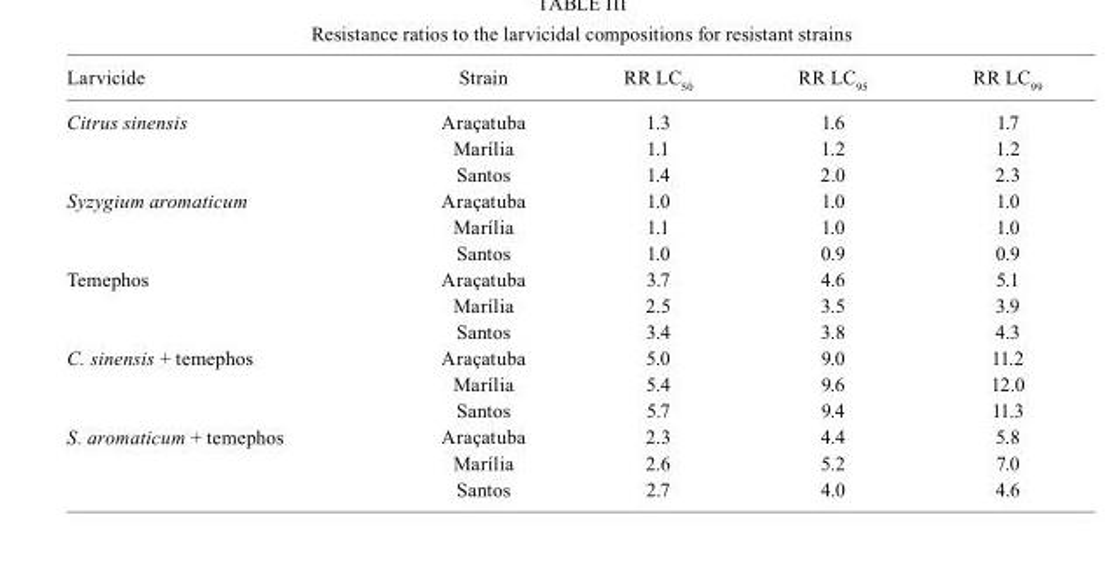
<table><thead><tr><td>Larvicide</td><td>Strain</td><td>RR LC<sub>50</sub></td><td>RR LC<sub>95</sub></td><td>RR LC<sub>99</sub></td></tr></thead><tbody><tr><td rowspan="3">Citrus sinensis</td><td>Araçatuba</td><td>1.3</td><td>1.6</td><td>1.7</td></tr><tr><td>Marília</td><td>1.1</td><td>1.2</td><td>1.2</td></tr><tr><td>Santos</td><td>1.4</td><td>2.0</td><td>2.3</td></tr><tr><td rowspan="3">Syzygium aromaticum</td><td>Araçatuba</td><td>1.0</td><td>1.0</td><td>1.0</td></tr><tr><td>Marília</td><td>1.1</td><td>1.0</td><td>1.0</td></tr><tr><td>Santos</td><td>1.0</td><td>0.9</td><td>0.9</td></tr><tr><td rowspan="3">Temephos</td><td>Araçatuba</td><td>3.7</td><td>4.6</td><td>5.1</td></tr><tr><td>Marília</td><td>2.5</td><td>3.5</td><td>3.9</td></tr><tr><td>Santos</td><td>3.4</td><td>3.8</td><td>4.3</td></tr><tr><td rowspan="3">C. sinensis + temephos</td><td>Araçatuba</td><td>5.0</td><td>9.0</td><td>11.2</td></tr><tr><td>Marília</td><td>5.4</td><td>9.6</td><td>12.0</td></tr><tr><td>Santos</td><td>5.7</td><td>9.4</td><td>11.3</td></tr><tr><td rowspan="3">S. aromaticum + temephos</td><td>Araçatuba</td><td>2.3</td><td>4.4</td><td>5.8</td></tr><tr><td>Marília</td><td>2.6</td><td>5.2</td><td>7.0</td></tr><tr><td>Santos</td><td>2.7</td><td>4.0</td><td>4.6</td></tr></tbody></table>